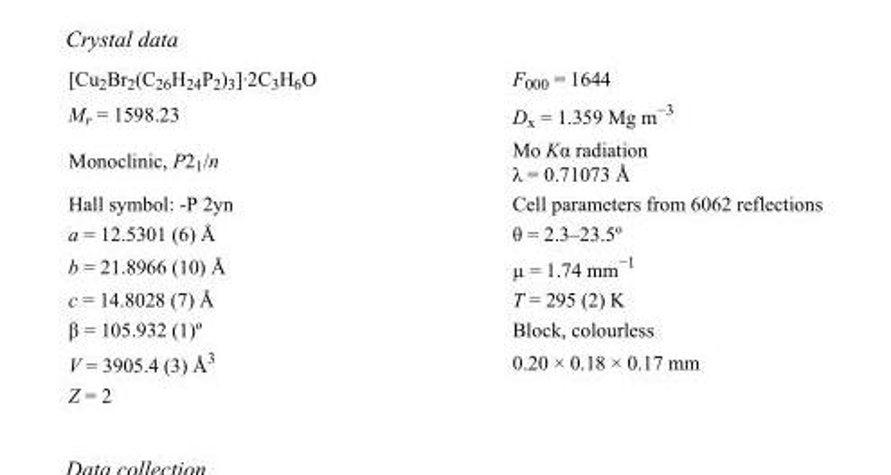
<table><tbody><tr><td>[Cu<sub>2</sub>Br<sub>2</sub>(C<sub>26</sub>H<sub>24</sub>P<sub>2</sub>)<sub>3</sub>]·2C<sub>3</sub>H<sub>6</sub>O</td><td>F000 = 1644</td></tr><tr><td>M<sub>r</sub> = 1598.23</td><td>D<sub>x</sub> = 1.359 Mg m<sup>−3</sup></td></tr><tr><td>Monoclinic, P2<sub>1</sub>/n</td><td>Mo Kα radiation λ = 0.71073 Å</td></tr><tr><td>Hall symbol: -P 2yn</td><td>Cell parameters from 6062 reflections</td></tr><tr><td>a = 12.5301 (6) Å</td><td>θ = 2.3–23.5º</td></tr><tr><td>b = 21.8966 (10) Å</td><td>µ = 1.74 mm<sup>−1</sup></td></tr><tr><td>c = 14.8028 (7) Å</td><td>T = 295 (2) K</td></tr><tr><td>β = 105.932 (1)º</td><td>Block, colourless</td></tr><tr><td>V = 3905.4 (3) Å<sup>3</sup></td><td>0.20 × 0.18 × 0.17 mm</td></tr><tr><td>Z = 2</td><td></td></tr></tbody></table>